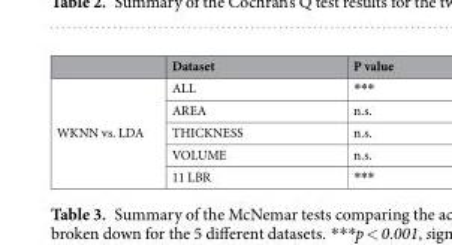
<table><thead><tr><td></td><td>Dataset</td><td>P value</td></tr></thead><tbody><tr><td rowspan="5">WKNN vs. LDA</td><td>ALL</td><td>***</td></tr><tr><td>AREA</td><td>n.s.</td></tr><tr><td>THICKNESS</td><td>n.s.</td></tr><tr><td>VOLUME</td><td>n.s.</td></tr><tr><td>11 LBR</td><td>***</td></tr></tbody></table>